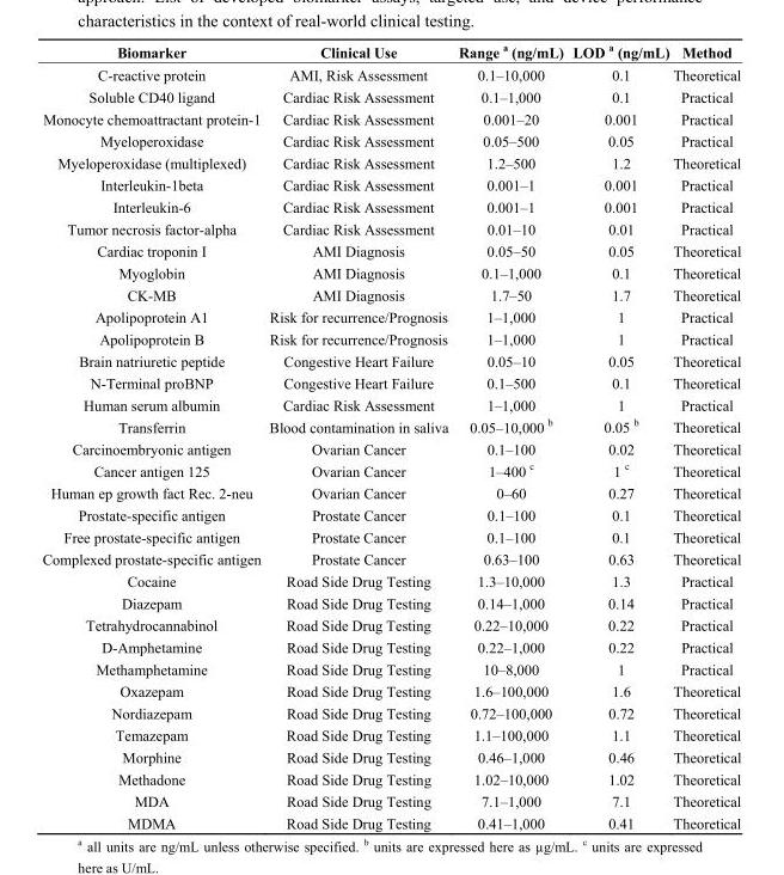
<table><thead><tr><td>Biomarker</td><td>Clinical Use</td><td>Range a (ng/mL)</td><td>LOD a (ng/mL)</td><td>Method</td></tr></thead><tbody><tr><td>C-reactive protein</td><td>AMI, Risk Assessment</td><td>0.1–10,000</td><td>0.1</td><td>Theoretical</td></tr><tr><td>Soluble CD40 ligand</td><td>Cardiac Risk Assessment</td><td>0.1–1,000</td><td>0.1</td><td>Practical</td></tr><tr><td>Monocyte chemoattractant protein-1</td><td>Cardiac Risk Assessment</td><td>0.001–20</td><td>0.001</td><td>Practical</td></tr><tr><td>Myeloperoxidase</td><td>Cardiac Risk Assessment</td><td>0.05–500</td><td>0.05</td><td>Practical</td></tr><tr><td>Myeloperoxidase (multiplexed)</td><td>Cardiac Risk Assessment</td><td>1.2–500</td><td>1.2</td><td>Theoretical</td></tr><tr><td>Interleukin-1beta</td><td>Cardiac Risk Assessment</td><td>0.001–1</td><td>0.001</td><td>Practical</td></tr><tr><td>Interleukin-6</td><td>Cardiac Risk Assessment</td><td>0.001–1</td><td>0.001</td><td>Practical</td></tr><tr><td>Tumor necrosis factor-alpha</td><td>Cardiac Risk Assessment</td><td>0.01–10</td><td>0.01</td><td>Practical</td></tr><tr><td>Cardiac troponin I</td><td>AMI Diagnosis</td><td>0.05–50</td><td>0.05</td><td>Theoretical</td></tr><tr><td>Myoglobin</td><td>AMI Diagnosis</td><td>0.1–1,000</td><td>0.1</td><td>Theoretical</td></tr><tr><td>CK-MB</td><td>AMI Diagnosis</td><td>1.7–50</td><td>1.7</td><td>Theoretical</td></tr><tr><td>Apolipoprotein A1</td><td>Risk for recurrence/Prognosis</td><td>1–1,000</td><td>1</td><td>Practical</td></tr><tr><td>Apolipoprotein B</td><td>Risk for recurrence/Prognosis</td><td>1–1,000</td><td>1</td><td>Practical</td></tr><tr><td>Brain natriuretic peptide</td><td>Congestive Heart Failure</td><td>0.05–10</td><td>0.05</td><td>Theoretical</td></tr><tr><td>N-Terminal proBNP</td><td>Congestive Heart Failure</td><td>0.1–500</td><td>0.1</td><td>Theoretical</td></tr><tr><td>Human serum albumin</td><td>Cardiac Risk Assessment</td><td>1–1,000</td><td>1</td><td>Practical</td></tr><tr><td>Transferrin</td><td>Blood contamination in saliva</td><td>0.05–10,000 b</td><td>0.05 b</td><td>Theoretical</td></tr><tr><td>Carcinoembryonic antigen</td><td>Ovarian Cancer</td><td>0.1–100</td><td>0.02</td><td>Theoretical</td></tr><tr><td>Cancer antigen 125</td><td>Ovarian Cancer</td><td>1–400 c</td><td>1 c</td><td>Theoretical</td></tr><tr><td>Human ep growth fact Rec. 2-neu</td><td>Ovarian Cancer</td><td>0–60</td><td>0.27</td><td>Theoretical</td></tr><tr><td>Prostate-specific antigen</td><td>Prostate Cancer</td><td>0.1–100</td><td>0.1</td><td>Theoretical</td></tr><tr><td>Free prostate-specific antigen</td><td>Prostate Cancer</td><td>0.1–100</td><td>0.1</td><td>Theoretical</td></tr><tr><td>Complexed prostate-specific antigen</td><td>Prostate Cancer</td><td>0.63–100</td><td>0.63</td><td>Theoretical</td></tr><tr><td>Cocaine</td><td>Road Side Drug Testing</td><td>1.3–10,000</td><td>1.3</td><td>Practical</td></tr><tr><td>Diazepam</td><td>Road Side Drug Testing</td><td>0.14–1,000</td><td>0.14</td><td>Practical</td></tr><tr><td>Tetrahydrocannabinol</td><td>Road Side Drug Testing</td><td>0.22–10,000</td><td>0.22</td><td>Practical</td></tr><tr><td>D-Amphetamine</td><td>Road Side Drug Testing</td><td>0.22–1,000</td><td>0.22</td><td>Practical</td></tr><tr><td>Methamphetamine</td><td>Road Side Drug Testing</td><td>10–8,000</td><td>1</td><td>Practical</td></tr><tr><td>Oxazepam</td><td>Road Side Drug Testing</td><td>1.6–100,000</td><td>1.6</td><td>Theoretical</td></tr><tr><td>Nordiazepam</td><td>Road Side Drug Testing</td><td>0.72–100,000</td><td>0.72</td><td>Theoretical</td></tr><tr><td>Temazepam</td><td>Road Side Drug Testing</td><td>1.1–100,000</td><td>1.1</td><td>Theoretical</td></tr><tr><td>Morphine</td><td>Road Side Drug Testing</td><td>0.46–1,000</td><td>0.46</td><td>Theoretical</td></tr><tr><td>Methadone</td><td>Road Side Drug Testing</td><td>1.02–10,000</td><td>1.02</td><td>Theoretical</td></tr><tr><td>MDA</td><td>Road Side Drug Testing</td><td>7.1–1,000</td><td>7.1</td><td>Theoretical</td></tr><tr><td>MDMA</td><td>Road Side Drug Testing</td><td>0.41–1,000</td><td>0.41</td><td>Theoretical</td></tr></tbody></table>